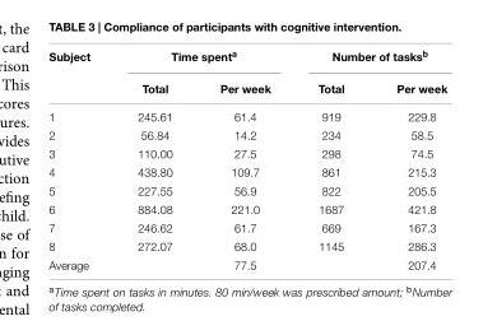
<table><thead><tr><td rowspan="2">Subject</td><td colspan="2">Time spent<sup>a</sup></td><td colspan="2">Number of tasks<sup>b</sup></td></tr><tr><td>Total</td><td>Per week</td><td>Total</td><td>Per week</td></tr></thead><tbody><tr><td>1</td><td>245.61</td><td>61.4</td><td>919</td><td>229.8</td></tr><tr><td>2</td><td>56.84</td><td>14.2</td><td>234</td><td>58.5</td></tr><tr><td>3</td><td>110.00</td><td>27.5</td><td>298</td><td>74.5</td></tr><tr><td>4</td><td>438.80</td><td>109.7</td><td>861</td><td>215.3</td></tr><tr><td>5</td><td>227.55</td><td>56.9</td><td>822</td><td>205.5</td></tr><tr><td>6</td><td>884.08</td><td>221.0</td><td>1687</td><td>421.8</td></tr><tr><td>7</td><td>246.62</td><td>61.7</td><td>669</td><td>167.3</td></tr><tr><td>8</td><td>272.07</td><td>68.0</td><td>1145</td><td>286.3</td></tr><tr><td>Average</td><td></td><td>77.5</td><td></td><td>207.4</td></tr></tbody></table>